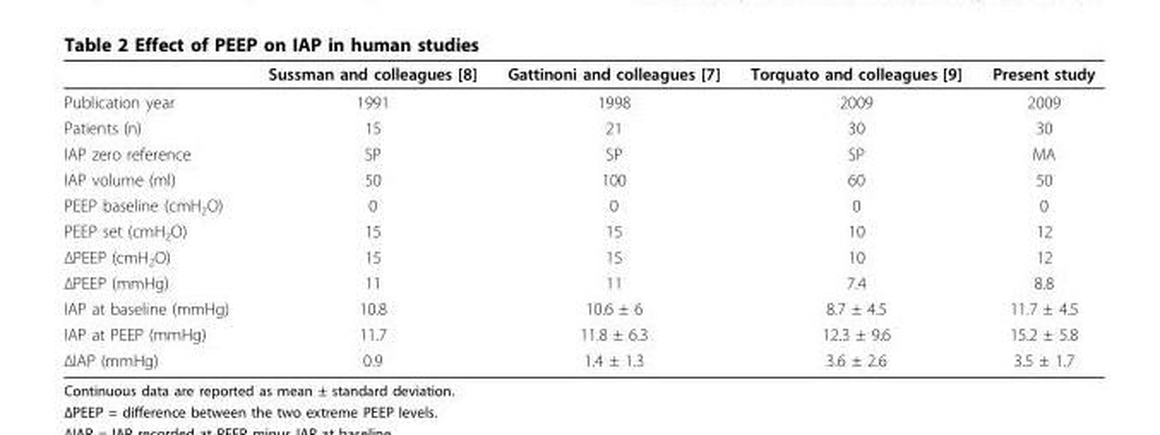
<table><thead><tr><td></td><td>Sussman and colleagues [8]</td><td>Gattinoni and colleagues [7]</td><td>Torquato and colleagues [9]</td><td>Present study</td></tr></thead><tbody><tr><td>Publication year</td><td>1991</td><td>1998</td><td>2009</td><td>2009</td></tr><tr><td>Patients (n)</td><td>15</td><td>21</td><td>30</td><td>30</td></tr><tr><td>IAP zero reference</td><td>SP</td><td>SP</td><td>SP</td><td>MA</td></tr><tr><td>IAP volume (ml)</td><td>50</td><td>100</td><td>60</td><td>50</td></tr><tr><td>PEEP baseline (cmH<sub>2</sub>O)</td><td>0</td><td>0</td><td>0</td><td>0</td></tr><tr><td>PEEP set (cmH<sub>2</sub>O)</td><td>15</td><td>15</td><td>10</td><td>12</td></tr><tr><td>ΔPEEP (cmH<sub>2</sub>O)</td><td>15</td><td>15</td><td>10</td><td>12</td></tr><tr><td>ΔPEEP (mmHg)</td><td>11</td><td>11</td><td>7.4</td><td>8.8</td></tr><tr><td>IAP at baseline (mmHg)</td><td>10.8</td><td>10.6 ± 6</td><td>8.7 ± 4.5</td><td>11.7 ± 4.5</td></tr><tr><td>IAP at PEEP (mmHg)</td><td>11.7</td><td>11.8 ± 6.3</td><td>12.3 ± 9.6</td><td>15.2 ± 5.8</td></tr><tr><td>ΔIAP (mmHg)</td><td>0.9</td><td>1.4 ± 1.3</td><td>3.6 ± 2.6</td><td>3.5 ± 1.7</td></tr></tbody></table>